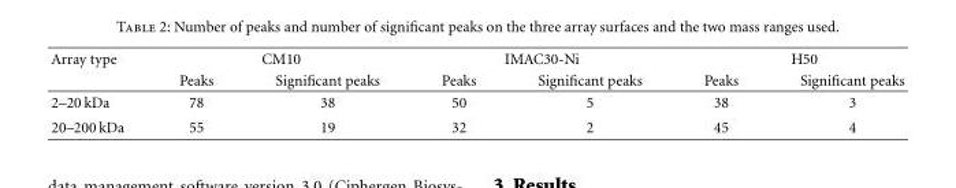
<table><thead><tr><td rowspan="2">Array type</td><td colspan="2">CM10</td><td colspan="2">IMAC30-Ni</td><td colspan="2">H50</td></tr><tr><td>Peaks</td><td>Significant peaks</td><td>Peaks</td><td>Significant peaks</td><td>Peaks</td><td>Significant peaks</td></tr></thead><tbody><tr><td>2–20 kDa</td><td>78</td><td>38</td><td>50</td><td>5</td><td>38</td><td>3</td></tr><tr><td>20–200 kDa</td><td>55</td><td>19</td><td>32</td><td>2</td><td>45</td><td>4</td></tr></tbody></table>